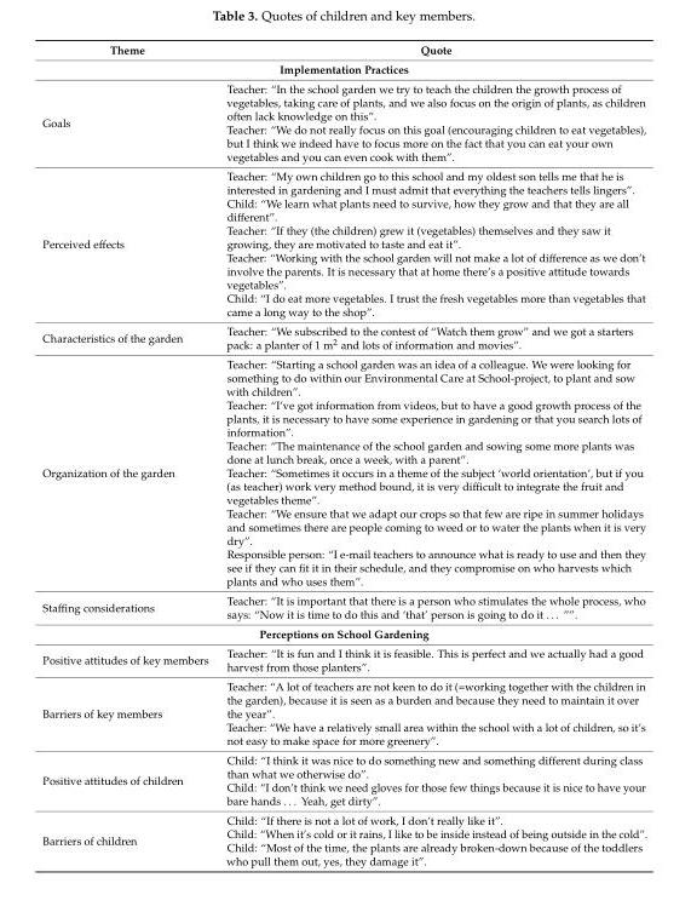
<table><thead><tr><td>Theme</td><td>Quote</td></tr></thead><tbody><tr><td colspan="2">Implementation Practices</td></tr><tr><td>Goals</td><td>Teacher: “In the school garden we try to teach the children the growth process of vegetables, taking care of plants, and we also focus on the origin of plants, as children often lack knowledge on this”. Teacher: “We do not really focus on this goal (encouraging children to eat vegetables), but I think we indeed have to focus more on the fact that you can eat your own vegetables and you can even cook with them”.</td></tr><tr><td>Perceived effects</td><td>Teacher: “My own children go to this school and my oldest son tells me that he is interested in gardening and I must admit that everything the teachers tells lingers”. Child: “We learn what plants need to survive, how they grow and that they are all different”. Teacher: “If they (the children) grew it (vegetables) themselves and they saw it growing, they are motivated to taste and eat it”. Teacher: “Working with the school garden will not make a lot of difference as we don’t involve the parents. It is necessary that at home there’s a positive attitude towards vegetables”. Child: “I do eat more vegetables. I trust the fresh vegetables more than vegetables that came a long way to the shop”.</td></tr><tr><td>Characteristics of the garden</td><td>Teacher: “We subscribed to the contest of “Watch them grow” and we got a starters pack: a planter of 1 m<sup>2</sup> and lots of information and movies”.</td></tr><tr><td>Organization of the garden</td><td>Teacher: “Starting a school garden was an idea of a colleague. We were looking for something to do within our Environmental Care at School-project, to plant and sow with children”. Teacher: “I’ve got information from videos, but to have a good growth process of the plants, it is necessary to have some experience in gardening or that you search lots of information”. Teacher: “The maintenance of the school garden and sowing some more plants was done at lunch break, once a week, with a parent”. Teacher: “Sometimes it occurs in a theme of the subject ‘world orientation’, but if you (as teacher) work very method bound, it is very difficult to integrate the fruit and vegetables theme”. Teacher: “We ensure that we adapt our crops so that few are ripe in summer holidays and sometimes there are people coming to weed or to water the plants when it is very dry”. Responsible person: “I e-mail teachers to announce what is ready to use and then they see if they can fit it in their schedule, and they compromise on who harvests which plants and who uses them”.</td></tr><tr><td>Staffing considerations</td><td>Teacher: “It is important that there is a person who stimulates the whole process, who says: “Now it is time to do this and ‘that’ person is going to do it . . . ””.</td></tr><tr><td colspan="2">Perceptions on School Gardening</td></tr><tr><td>Positive attitudes of key members</td><td>Teacher: “It is fun and I think it is feasible. This is perfect and we actually had a good harvest from those planters”.</td></tr><tr><td>Barriers of key members</td><td>Teacher: “A lot of teachers are not keen to do it (=working together with the children in the garden), because it is seen as a burden and because they need to maintain it over the year”. Teacher: “We have a relatively small area within the school with a lot of children, so it’s not easy to make space for more greenery”.</td></tr><tr><td>Positive attitudes of children</td><td>Child: “I think it was nice to do something new and something different during class than what we otherwise do”. Child: “I don’t think we need gloves for those few things because it is nice to have your bare hands . . . Yeah, get dirty”.</td></tr><tr><td>Barriers of children</td><td>Child: “If there is not a lot of work, I don’t really like it”. Child: “When it’s cold or it rains, I like to be inside instead of being outside in the cold”. Child: “Most of the time, the plants are already broken-down because of the toddlers who pull them out, yes, they damage it”.</td></tr></tbody></table>